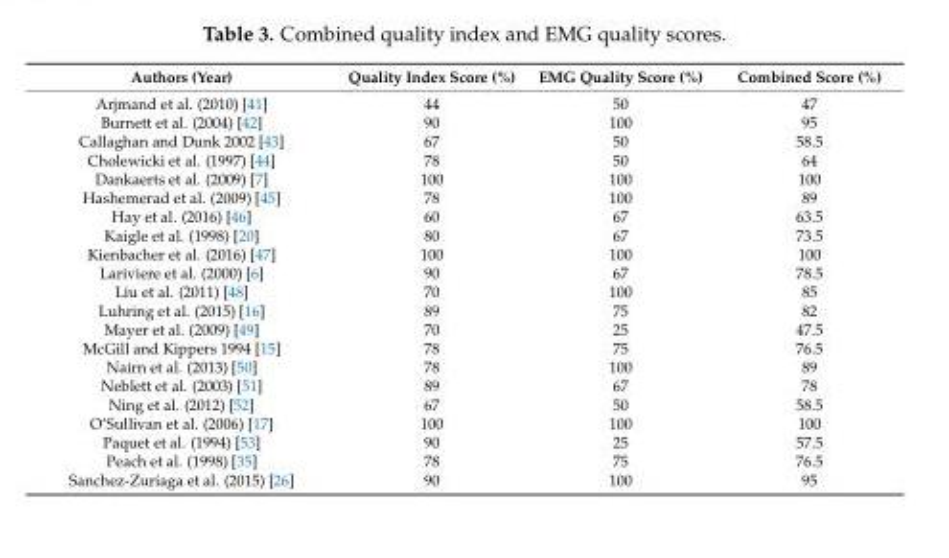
<table><thead><tr><td>Authors (Year)</td><td>Quality Index Score (%)</td><td>EMG Quality Score (%)</td><td>Combined Score (%)</td></tr></thead><tbody><tr><td>Arjmand et al. (2010) [41]</td><td>44</td><td>50</td><td>47</td></tr><tr><td>Burnett et al. (2004) [42]</td><td>90</td><td>100</td><td>95</td></tr><tr><td>Callaghan and Dunk 2002 [43]</td><td>67</td><td>50</td><td>58.5</td></tr><tr><td>Cholewicki et al. (1997) [44]</td><td>78</td><td>50</td><td>64</td></tr><tr><td>Dankaerts et al. (2009) [7]</td><td>100</td><td>100</td><td>100</td></tr><tr><td>Hashemerad et al. (2009) [45]</td><td>78</td><td>100</td><td>89</td></tr><tr><td>Hay et al. (2016) [46]</td><td>60</td><td>67</td><td>63.5</td></tr><tr><td>Kaigle et al. (1998) [20]</td><td>80</td><td>67</td><td>73.5</td></tr><tr><td>Kienbacher et al. (2016) [47]</td><td>100</td><td>100</td><td>100</td></tr><tr><td>Lariviere et al. (2000) [6]</td><td>90</td><td>67</td><td>78.5</td></tr><tr><td>Liu et al. (2011) [48]</td><td>70</td><td>100</td><td>85</td></tr><tr><td>Luhring et al. (2015) [16]</td><td>89</td><td>75</td><td>82</td></tr><tr><td>Mayer et al. (2009) [49]</td><td>70</td><td>25</td><td>47.5</td></tr><tr><td>McGill and Kippers 1994 [15]</td><td>78</td><td>75</td><td>76.5</td></tr><tr><td>Nairn et al. (2013) [50]</td><td>78</td><td>100</td><td>89</td></tr><tr><td>Neblett et al. (2003) [51]</td><td>89</td><td>67</td><td>78</td></tr><tr><td>Ning et al. (2012) [52]</td><td>67</td><td>50</td><td>58.5</td></tr><tr><td>O’Sullivan et al. (2006) [17]</td><td>100</td><td>100</td><td>100</td></tr><tr><td>Paquet et al. (1994) [53]</td><td>90</td><td>25</td><td>57.5</td></tr><tr><td>Peach et al. (1998) [35]</td><td>78</td><td>75</td><td>76.5</td></tr><tr><td>Sanchez-Zuriaga et al. (2015) [26]</td><td>90</td><td>100</td><td>95</td></tr></tbody></table>